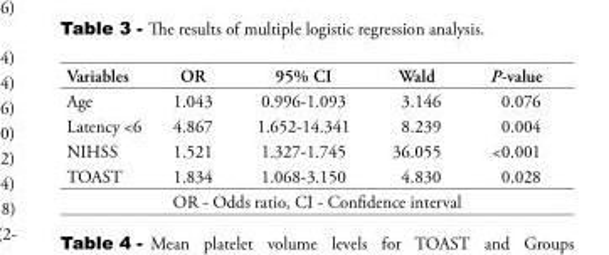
<table><thead><tr><td>Variables</td><td>OR</td><td>95% CI</td><td>Wald</td><td>P-value</td></tr></thead><tbody><tr><td>Age</td><td>1.043</td><td>0.996-1.093</td><td>3.146</td><td>0.076</td></tr><tr><td>Latency &lt;6</td><td>4.867</td><td>1.652-14.341</td><td>8.239</td><td>0.004</td></tr><tr><td>NIHSS</td><td>1.521</td><td>1.327-1.745</td><td>36.055</td><td>&lt;0.001</td></tr><tr><td>TOAST</td><td>1.834</td><td>1.068-3.150</td><td>4.830</td><td>0.028</td></tr></tbody></table>